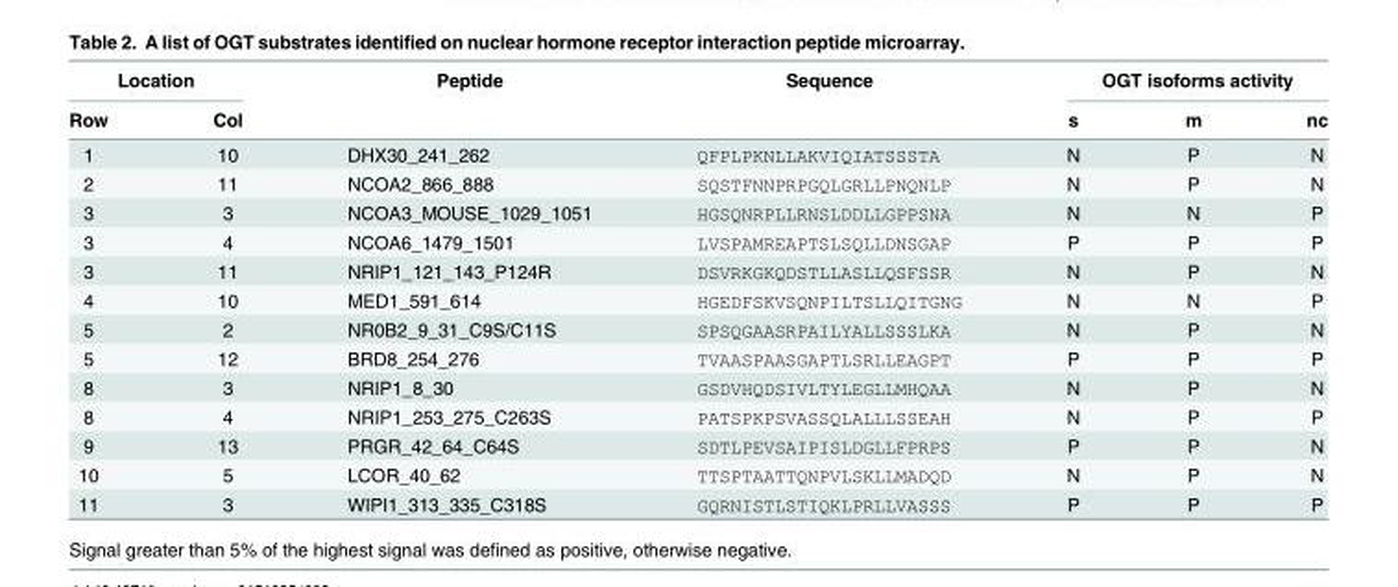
<table><thead><tr><td colspan="2">Location</td><td rowspan="2">Peptide</td><td rowspan="2">Sequence</td><td colspan="3">OGT isoforms activity</td></tr><tr><td>Row</td><td>Col</td><td>s</td><td>m</td><td>nc</td></tr></thead><tbody><tr><td>1</td><td>10</td><td>DHX30_241_262</td><td>QFPLPKNLLAKVIQIATSSSTA</td><td>N</td><td>P</td><td>N</td></tr><tr><td>2</td><td>11</td><td>NCOA2_866_888</td><td>SQSTFNNPRPGQLGRLLPNQNLP</td><td>N</td><td>P</td><td>N</td></tr><tr><td>3</td><td>3</td><td>NCOA3_MOUSE_1029_1051</td><td>HGSQNRPLLRNSLDDLLGPPSNA</td><td>N</td><td>N</td><td>P</td></tr><tr><td>3</td><td>4</td><td>NCOA6_1479_1501</td><td>LVSPAMREAPTSLSQLLDNSGAP</td><td>P</td><td>P</td><td>P</td></tr><tr><td>3</td><td>11</td><td>NRIP1_121_143_P124R</td><td>DSVRKGKQDSTLLASLLQSFSSR</td><td>N</td><td>P</td><td>N</td></tr><tr><td>4</td><td>10</td><td>MED1_591_614</td><td>HGEDFSKVSQNPILTSLLQITGNG</td><td>N</td><td>N</td><td>P</td></tr><tr><td>5</td><td>2</td><td>NR0B2_9_31_C9S/C11S</td><td>SPSQGAASRPAILYALLSSSLKA</td><td>N</td><td>P</td><td>N</td></tr><tr><td>5</td><td>12</td><td>BRD8_254_276</td><td>TVAASPAASGAPTLSRLLEAGPT</td><td>P</td><td>P</td><td>P</td></tr><tr><td>8</td><td>3</td><td>NRIP1_8_30</td><td>GSDVHQDSIVLTYLEGLLMHQAA</td><td>N</td><td>P</td><td>N</td></tr><tr><td>8</td><td>4</td><td>NRIP1_253_275_C263S</td><td>PATSPKPSVASSQLALLLSSEAH</td><td>N</td><td>P</td><td>P</td></tr><tr><td>9</td><td>13</td><td>PRGR_42_64_C64S</td><td>SDTLPEVSAIPISLDGLLFPRPS</td><td>P</td><td>P</td><td>N</td></tr><tr><td>10</td><td>5</td><td>LCOR_40_62</td><td>TTSPTAATTQNPVLSKLLMADQD</td><td>N</td><td>P</td><td>N</td></tr><tr><td>11</td><td>3</td><td>WIPI1_313_335_C318S</td><td>GQRNISTLSTIQKLPRLLVASSS</td><td>P</td><td>P</td><td>P</td></tr></tbody></table>